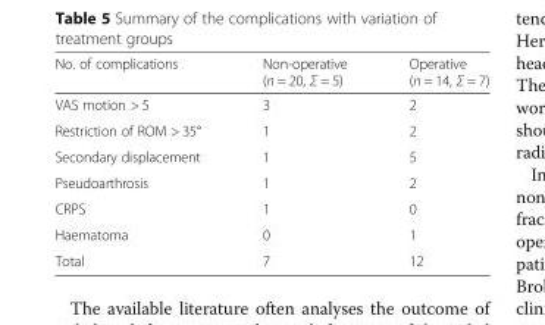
<table><thead><tr><td>No. of complications</td><td>Non-operative (n = 20, Σ = 5)</td><td>Operative (n = 14, Σ = 7)</td></tr></thead><tbody><tr><td>VAS motion &gt; 5</td><td>3</td><td>2</td></tr><tr><td>Restriction of ROM &gt; 35°</td><td>1</td><td>2</td></tr><tr><td>Secondary displacement</td><td>1</td><td>5</td></tr><tr><td>Pseudoarthrosis</td><td>1</td><td>2</td></tr><tr><td>CRPS</td><td>1</td><td>0</td></tr><tr><td>Haematoma</td><td>0</td><td>1</td></tr><tr><td>Total</td><td>7</td><td>12</td></tr></tbody></table>